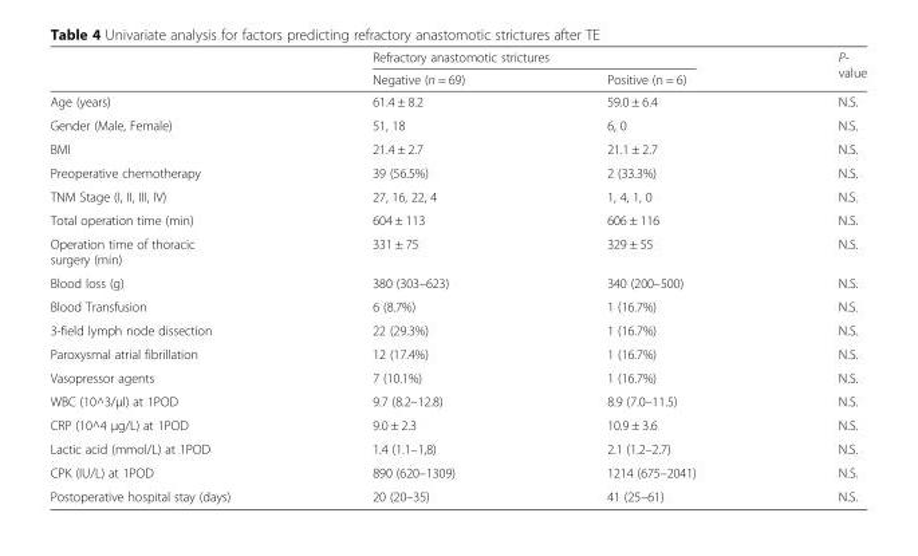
<table><thead><tr><td rowspan="2"></td><td colspan="2">Refractory anastomotic strictures</td><td rowspan="2">P- value</td></tr><tr><td>Negative (n = 69)</td><td>Positive (n = 6)</td></tr></thead><tbody><tr><td>Age (years)</td><td>61.4 ± 8.2</td><td>59.0 ± 6.4</td><td>N.S.</td></tr><tr><td>Gender (Male, Female)</td><td>51, 18</td><td>6, 0</td><td>N.S.</td></tr><tr><td>BMI</td><td>21.4 ± 2.7</td><td>21.1 ± 2.7</td><td>N.S.</td></tr><tr><td>Preoperative chemotherapy</td><td>39 (56.5%)</td><td>2 (33.3%)</td><td>N.S.</td></tr><tr><td>TNM Stage (I, II, III, IV)</td><td>27, 16, 22, 4</td><td>1, 4, 1, 0</td><td>N.S.</td></tr><tr><td>Total operation time (min)</td><td>604 ± 113</td><td>606 ± 116</td><td>N.S.</td></tr><tr><td>Operation time of thoracic surgery (min)</td><td>331 ± 75</td><td>329 ± 55</td><td>N.S.</td></tr><tr><td>Blood loss (g)</td><td>380 (303–623)</td><td>340 (200–500)</td><td>N.S.</td></tr><tr><td>Blood Transfusion</td><td>6 (8.7%)</td><td>1 (16.7%)</td><td>N.S.</td></tr><tr><td>3-field lymph node dissection</td><td>22 (29.3%)</td><td>1 (16.7%)</td><td>N.S.</td></tr><tr><td>Paroxysmal atrial fibrillation</td><td>12 (17.4%)</td><td>1 (16.7%)</td><td>N.S.</td></tr><tr><td>Vasopressor agents</td><td>7 (10.1%)</td><td>1 (16.7%)</td><td>N.S.</td></tr><tr><td>WBC (10^3/μl) at 1POD</td><td>9.7 (8.2–12.8)</td><td>8.9 (7.0–11.5)</td><td>N.S.</td></tr><tr><td>CRP (10^4 μg/L) at 1POD</td><td>9.0 ± 2.3</td><td>10.9 ± 3.6</td><td>N.S.</td></tr><tr><td>Lactic acid (mmol/L) at 1POD</td><td>1.4 (1.1–1,8)</td><td>2.1 (1.2–2.7)</td><td>N.S.</td></tr><tr><td>CPK (IU/L) at 1POD</td><td>890 (620–1309)</td><td>1214 (675–2041)</td><td>N.S.</td></tr><tr><td>Postoperative hospital stay (days)</td><td>20 (20–35)</td><td>41 (25–61)</td><td>N.S.</td></tr></tbody></table>